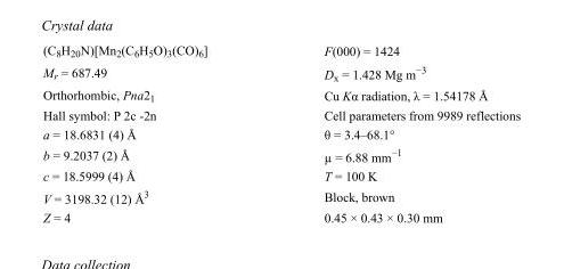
<table><tbody><tr><td>(C<sub>8</sub>H<sub>20</sub>N)[Mn<sub>2</sub>(C<sub>6</sub>H<sub>5</sub>O)<sub>3</sub>(CO)<sub>6</sub>]</td><td>F(000) = 1424</td></tr><tr><td>M<sub>r</sub> = 687.49</td><td>D<sub>x</sub> = 1.428 Mg m<sup>−3</sup></td></tr><tr><td>Orthorhombic, Pna2<sub>1</sub></td><td>Cu Kα radiation, λ = 1.54178 Å</td></tr><tr><td>Hall symbol: P 2c -2n</td><td>Cell parameters from 9989 reflections</td></tr><tr><td>a = 18.6831 (4) Å</td><td>θ = 3.4–68.1°</td></tr><tr><td>b = 9.2037 (2) Å</td><td>µ = 6.88 mm<sup>−1</sup></td></tr><tr><td>c = 18.5999 (4) Å</td><td>T = 100 K</td></tr><tr><td>V = 3198.32 (12) Å<sup>3</sup></td><td>Block, brown</td></tr><tr><td>Z = 4</td><td>0.45 × 0.43 × 0.30 mm</td></tr></tbody></table>